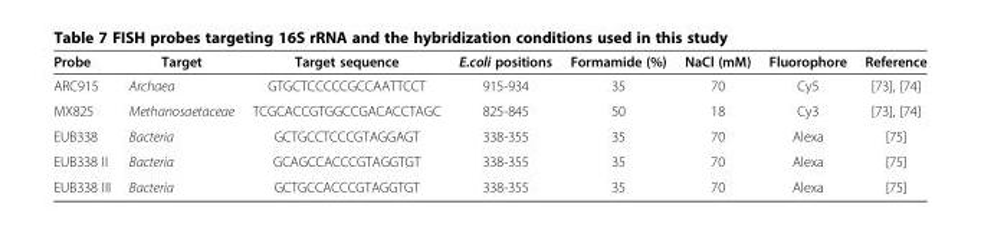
<table><thead><tr><td>Probe</td><td>Target</td><td>Target sequence</td><td>E.coli positions</td><td>Formamide (%)</td><td>NaCl (mM)</td><td>Fluorophore</td><td>Reference</td></tr></thead><tbody><tr><td>ARC915</td><td>Archaea</td><td>GTGCTCCCCCGCCAATTCCT</td><td>915-934</td><td>35</td><td>70</td><td>Cy5</td><td>[73], [74]</td></tr><tr><td>MX825</td><td>Methanosaetaceae</td><td>TCGCACCGTGGCCGACACCTAGC</td><td>825-845</td><td>50</td><td>18</td><td>Cy3</td><td>[73], [74]</td></tr><tr><td>EUB338</td><td>Bacteria</td><td>GCTGCCTCCCGTAGGAGT</td><td>338-355</td><td>35</td><td>70</td><td>Alexa</td><td>[75]</td></tr><tr><td>EUB338 II</td><td>Bacteria</td><td>GCAGCCACCCGTAGGTGT</td><td>338-355</td><td>35</td><td>70</td><td>Alexa</td><td>[75]</td></tr><tr><td>EUB338 III</td><td>Bacteria</td><td>GCTGCCACCCGTAGGTGT</td><td>338-355</td><td>35</td><td>70</td><td>Alexa</td><td>[75]</td></tr></tbody></table>